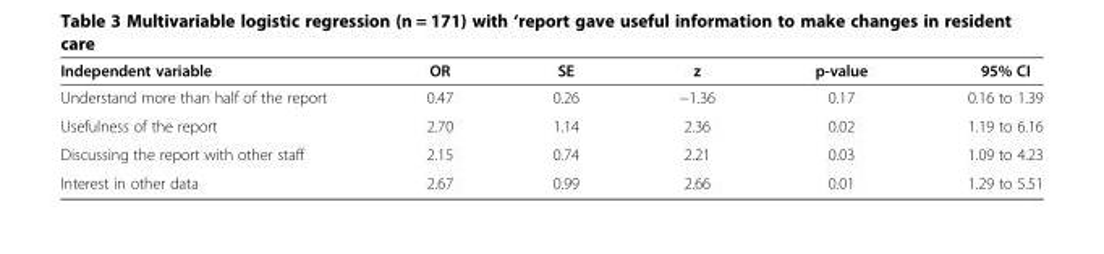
<table><thead><tr><td>Independent variable</td><td>OR</td><td>SE</td><td>z</td><td>p-value</td><td>95% CI</td></tr></thead><tbody><tr><td>Understand more than half of the report</td><td>0.47</td><td>0.26</td><td>−1.36</td><td>0.17</td><td>0.16 to 1.39</td></tr><tr><td>Usefulness of the report</td><td>2.70</td><td>1.14</td><td>2.36</td><td>0.02</td><td>1.19 to 6.16</td></tr><tr><td>Discussing the report with other staff</td><td>2.15</td><td>0.74</td><td>2.21</td><td>0.03</td><td>1.09 to 4.23</td></tr><tr><td>Interest in other data</td><td>2.67</td><td>0.99</td><td>2.66</td><td>0.01</td><td>1.29 to 5.51</td></tr></tbody></table>